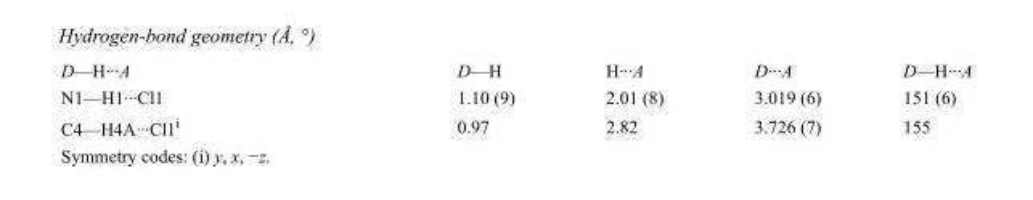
<table><tbody><tr><td>D—H···A</td><td>D—H</td><td>H···A</td><td>D···A</td><td>D—H···A</td></tr><tr><td>N1—H1···Cl1</td><td>1.10 (9)</td><td>2.01 (8)</td><td>3.019 (6)</td><td>151 (6)</td></tr><tr><td>C4—H4A···Cl1<sup>i</sup></td><td>0.97</td><td>2.82</td><td>3.726 (7)</td><td>155</td></tr></tbody></table>